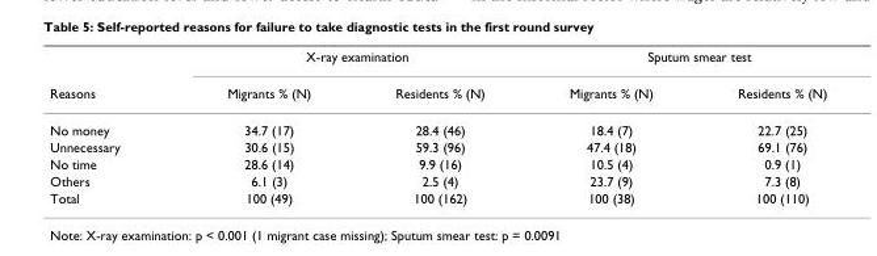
<table><thead><tr><td rowspan="2">Reasons</td><td colspan="2">X-ray examination</td><td colspan="2">Sputum smear test</td></tr><tr><td>Migrants % (N)</td><td>Residents % (N)</td><td>Migrants % (N)</td><td>Residents % (N)</td></tr></thead><tbody><tr><td>No money</td><td>34.7 (17)</td><td>28.4 (46)</td><td>18.4 (7)</td><td>22.7 (25)</td></tr><tr><td>Unnecessary</td><td>30.6 (15)</td><td>59.3 (96)</td><td>47.4 (18)</td><td>69.1 (76)</td></tr><tr><td>No time</td><td>28.6 (14)</td><td>9.9 (16)</td><td>10.5 (4)</td><td>0.9 (1)</td></tr><tr><td>Others</td><td>6.1 (3)</td><td>2.5 (4)</td><td>23.7 (9)</td><td>7.3 (8)</td></tr><tr><td>Total</td><td>100 (49)</td><td>100 (162)</td><td>100 (38)</td><td>100 (110)</td></tr></tbody></table>